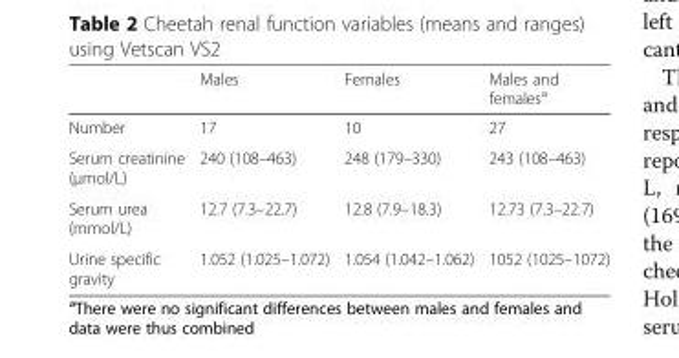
<table><thead><tr><td></td><td>Males</td><td>Females</td><td>Males and females<sup>a</sup></td></tr></thead><tbody><tr><td>Number</td><td>17</td><td>10</td><td>27</td></tr><tr><td>Serum creatinine (μmol/L)</td><td>240 (108–463)</td><td>248 (179–330)</td><td>243 (108–463)</td></tr><tr><td>Serum urea (mmol/L)</td><td>12.7 (7.3–22.7)</td><td>12.8 (7.9–18.3)</td><td>12.73 (7.3–22.7)</td></tr><tr><td>Urine specific gravity</td><td>1.052 (1.025–1.072)</td><td>1.054 (1.042–1.062)</td><td>1052 (1025–1072)</td></tr></tbody></table>